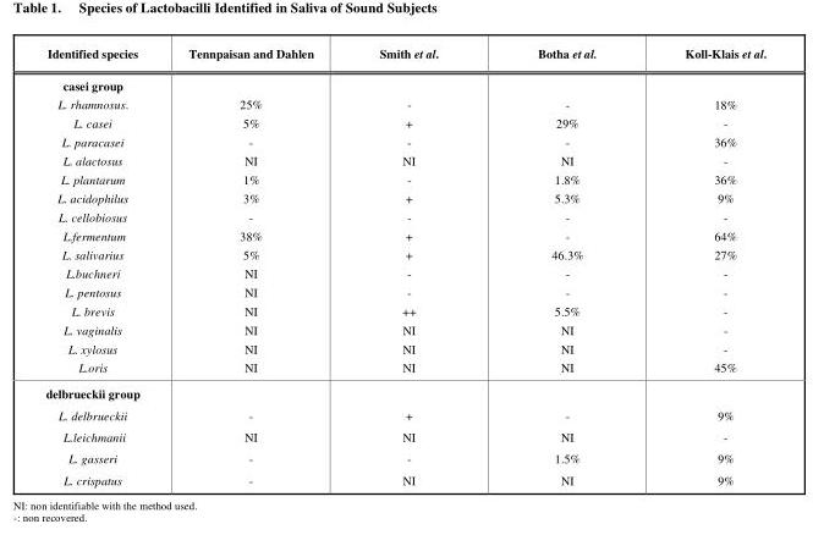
<table><thead><tr><td>Identified species</td><td>Tennpaisan and Dahlen</td><td>Smith et al.</td><td>Botha et al.</td><td>Koll-Klais et al.</td></tr></thead><tbody><tr><td>casei group L. rhamnosus. L. casei L. paracasei L. alactosus L. plantarum L. acidophilus L. cellobiosus L.fermentum L. salivarius L.buchneri L. pentosus L. brevis L. vaginalis L. xylosus L.oris</td><td>25% 5% - NI 1% 3% - 38% 5% NI NI NI NI NI NI</td><td>- + - NI - + - + + - - ++ NI NI NI</td><td>- 29% - NI 1.8% 5.3% - - 46.3% - - 5.5% NI NI NI</td><td>18% - 36% - 36% 9% - 64% 27% - - - - - 45%</td></tr><tr><td>delbrueckii group L. delbrueckii L.leichmanii L. gasseri L. crispatus</td><td>- NI - -</td><td>+ NI - NI</td><td>- NI 1.5% NI</td><td>9% - 9% 9%</td></tr></tbody></table>